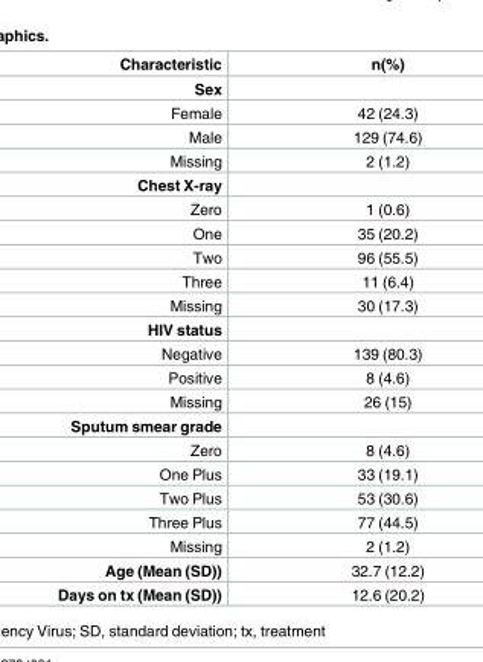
<table><thead><tr><td>Characteristic</td><td>n(%)</td></tr></thead><tbody><tr><td colspan="2">Sex</td></tr><tr><td>Female</td><td>42 (24.3)</td></tr><tr><td>Male</td><td>129 (74.6)</td></tr><tr><td>Missing</td><td>2 (1.2)</td></tr><tr><td colspan="2">Chest X-ray</td></tr><tr><td>Zero</td><td>1 (0.6)</td></tr><tr><td>One</td><td>35 (20.2)</td></tr><tr><td>Two</td><td>96 (55.5)</td></tr><tr><td>Three</td><td>11 (6.4)</td></tr><tr><td>Missing</td><td>30 (17.3)</td></tr><tr><td colspan="2">HIV status</td></tr><tr><td>Negative</td><td>139 (80.3)</td></tr><tr><td>Positive</td><td>8 (4.6)</td></tr><tr><td>Missing</td><td>26 (15)</td></tr><tr><td colspan="2">Sputum smear grade</td></tr><tr><td>Zero</td><td>8 (4.6)</td></tr><tr><td>One Plus</td><td>33 (19.1)</td></tr><tr><td>Two Plus</td><td>53 (30.6)</td></tr><tr><td>Three Plus</td><td>77 (44.5)</td></tr><tr><td>Missing</td><td>2 (1.2)</td></tr><tr><td>Age (Mean (SD))</td><td>32.7 (12.2)</td></tr><tr><td>Days on tx (Mean (SD))</td><td>12.6 (20.2)</td></tr></tbody></table>